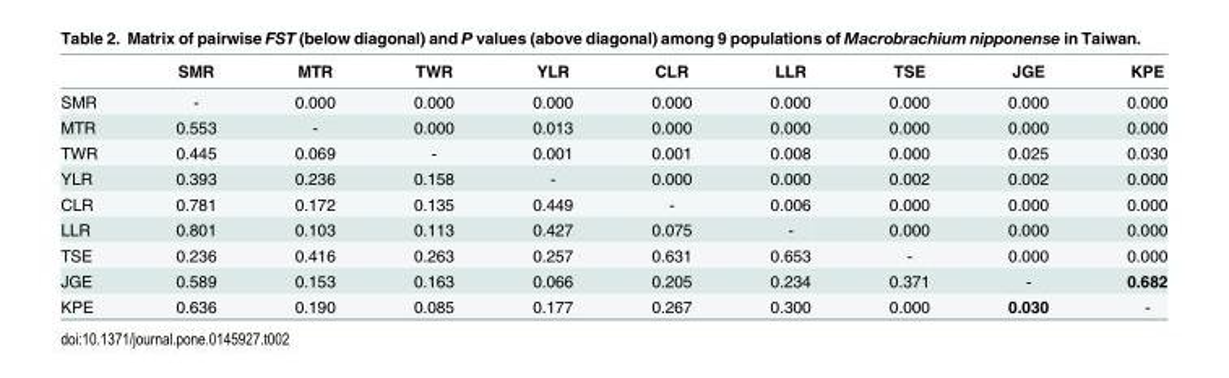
<table><thead><tr><td></td><td>SMR</td><td>MTR</td><td>TWR</td><td>YLR</td><td>CLR</td><td>LLR</td><td>TSE</td><td>JGE</td><td>KPE</td></tr></thead><tbody><tr><td>SMR</td><td>-</td><td>0.000</td><td>0.000</td><td>0.000</td><td>0.000</td><td>0.000</td><td>0.000</td><td>0.000</td><td>0.000</td></tr><tr><td>MTR</td><td>0.553</td><td>-</td><td>0.000</td><td>0.013</td><td>0.000</td><td>0.000</td><td>0.000</td><td>0.000</td><td>0.000</td></tr><tr><td>TWR</td><td>0.445</td><td>0.069</td><td>-</td><td>0.001</td><td>0.001</td><td>0.008</td><td>0.000</td><td>0.025</td><td>0.030</td></tr><tr><td>YLR</td><td>0.393</td><td>0.236</td><td>0.158</td><td>-</td><td>0.000</td><td>0.000</td><td>0.002</td><td>0.002</td><td>0.000</td></tr><tr><td>CLR</td><td>0.781</td><td>0.172</td><td>0.135</td><td>0.449</td><td>-</td><td>0.006</td><td>0.000</td><td>0.000</td><td>0.000</td></tr><tr><td>LLR</td><td>0.801</td><td>0.103</td><td>0.113</td><td>0.427</td><td>0.075</td><td>-</td><td>0.000</td><td>0.000</td><td>0.000</td></tr><tr><td>TSE</td><td>0.236</td><td>0.416</td><td>0.263</td><td>0.257</td><td>0.631</td><td>0.653</td><td>-</td><td>0.000</td><td>0.000</td></tr><tr><td>JGE</td><td>0.589</td><td>0.153</td><td>0.163</td><td>0.066</td><td>0.205</td><td>0.234</td><td>0.371</td><td>-</td><td>0.682</td></tr><tr><td>KPE</td><td>0.636</td><td>0.190</td><td>0.085</td><td>0.177</td><td>0.267</td><td>0.300</td><td>0.000</td><td>0.030</td><td>-</td></tr></tbody></table>